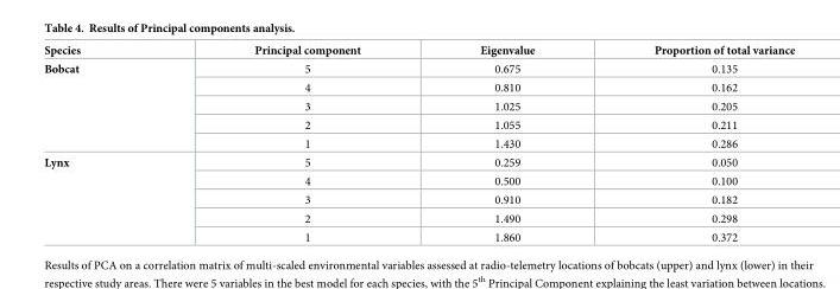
<table><thead><tr><td>Species</td><td>Principal component</td><td>Eigenvalue</td><td>Proportion of total variance</td></tr></thead><tbody><tr><td rowspan="5">Bobcat</td><td>5</td><td>0.675</td><td>0.135</td></tr><tr><td>4</td><td>0.810</td><td>0.162</td></tr><tr><td>3</td><td>1.025</td><td>0.205</td></tr><tr><td>2</td><td>1.055</td><td>0.211</td></tr><tr><td>1</td><td>1.430</td><td>0.286</td></tr><tr><td rowspan="5">Lynx</td><td>5</td><td>0.259</td><td>0.050</td></tr><tr><td>4</td><td>0.500</td><td>0.100</td></tr><tr><td>3</td><td>0.910</td><td>0.182</td></tr><tr><td>2</td><td>1.490</td><td>0.298</td></tr><tr><td>1</td><td>1.860</td><td>0.372</td></tr></tbody></table>